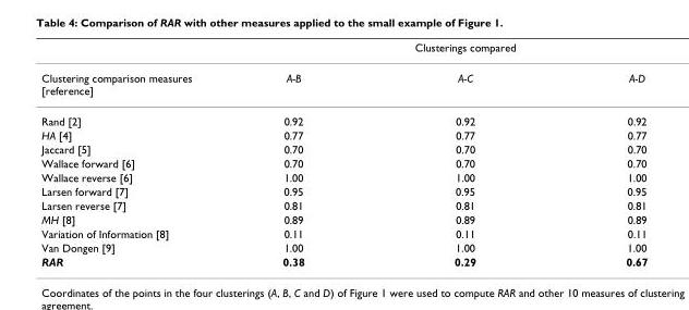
<table><thead><tr><td rowspan="2">Clustering comparison measures [reference]</td><td colspan="3">Clusterings compared</td></tr><tr><td>A-B</td><td>A-C</td><td>A-D</td></tr></thead><tbody><tr><td>Rand [2]</td><td>0.92</td><td>0.92</td><td>0.92</td></tr><tr><td>HA [4]</td><td>0.77</td><td>0.77</td><td>0.77</td></tr><tr><td>Jaccard [5]</td><td>0.70</td><td>0.70</td><td>0.70</td></tr><tr><td>Wallace forward [6]</td><td>0.70</td><td>0.70</td><td>0.70</td></tr><tr><td>Wallace reverse [6]</td><td>1.00</td><td>1.00</td><td>1.00</td></tr><tr><td>Larsen forward [7]</td><td>0.95</td><td>0.95</td><td>0.95</td></tr><tr><td>Larsen reverse [7]</td><td>0.81</td><td>0.81</td><td>0.81</td></tr><tr><td>MH [8]</td><td>0.89</td><td>0.89</td><td>0.89</td></tr><tr><td>Variation of Information [8]</td><td>0.11</td><td>0.11</td><td>0.11</td></tr><tr><td>Van Dongen [9]</td><td>1.00</td><td>1.00</td><td>1.00</td></tr><tr><td>RAR</td><td>0.38</td><td>0.29</td><td>0.67</td></tr></tbody></table>